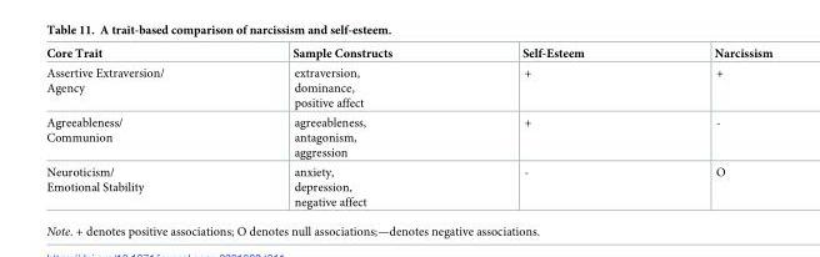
<table><thead><tr><td>Core Trait</td><td>Sample Constructs</td><td>Self-Esteem</td><td>Narcissism</td></tr></thead><tbody><tr><td>Assertive Extraversion/ Agency</td><td>extraversion, dominance, positive affect</td><td>+</td><td>+</td></tr><tr><td>Agreeableness/ Communion</td><td>agreeableness, antagonism, aggression</td><td>+</td><td>-</td></tr><tr><td>Neuroticism/ Emotional Stability</td><td>anxiety, depression, negative affect</td><td>-</td><td>O</td></tr></tbody></table>